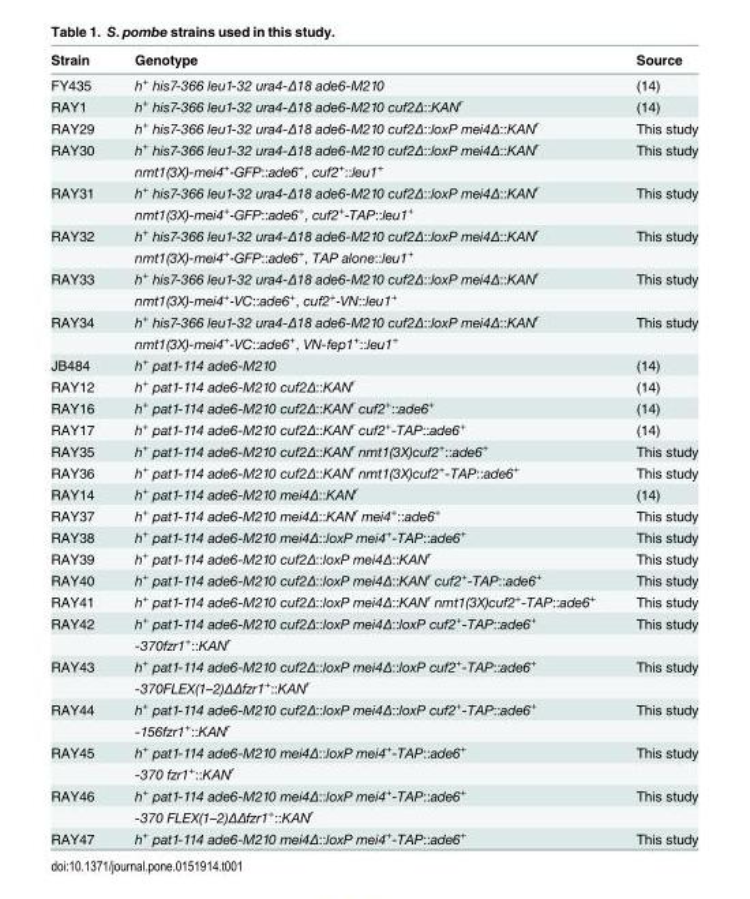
<table><thead><tr><td>Strain</td><td>Genotype</td><td>Source</td></tr></thead><tbody><tr><td>FY435</td><td>h<sup>+</sup> his7-366 leu1-32 ura4-Δ18 ade6-M210</td><td>(14)</td></tr><tr><td>RAY1</td><td>h<sup>+</sup> his7-366 leu1-32 ura4-Δ18 ade6-M210 cuf2Δ::KAN<sup>r</sup></td><td>(14)</td></tr><tr><td>RAY29</td><td>h<sup>+</sup> his7-366 leu1-32 ura4-Δ18 ade6-M210 cuf2Δ::loxP mei4Δ::KAN<sup>r</sup></td><td>This study</td></tr><tr><td rowspan="2">RAY30</td><td>h<sup>+</sup> his7-366 leu1-32 ura4-Δ18 ade6-M210 cuf2Δ::loxP mei4Δ::KAN<sup>r</sup></td><td>This study</td></tr><tr><td>nmt1(3X)-mei4<sup>+</sup>-GFP::ade6<sup>+</sup>, cuf2<sup>+</sup>::leu1<sup>+</sup></td><td></td></tr><tr><td rowspan="2">RAY31</td><td>h<sup>+</sup> his7-366 leu1-32 ura4-Δ18 ade6-M210 cuf2Δ::loxP mei4Δ::KAN<sup>r</sup></td><td>This study</td></tr><tr><td>nmt1(3X)-mei4<sup>+</sup>-GFP::ade6<sup>+</sup>, cuf2<sup>+</sup>-TAP::leu1<sup>+</sup></td><td></td></tr><tr><td rowspan="2">RAY32</td><td>h<sup>+</sup> his7-366 leu1-32 ura4-Δ18 ade6-M210 cuf2Δ::loxP mei4Δ::KAN<sup>r</sup></td><td>This study</td></tr><tr><td>nmt1(3X)-mei4<sup>+</sup>-GFP::ade6<sup>+</sup>, TAP alone::leu1<sup>+</sup></td><td></td></tr><tr><td rowspan="2">RAY33</td><td>h<sup>+</sup> his7-366 leu1-32 ura4-Δ18 ade6-M210 cuf2Δ::loxP mei4Δ::KAN<sup>r</sup></td><td>This study</td></tr><tr><td>nmt1(3X)-mei4<sup>+</sup>-VC::ade6<sup>+</sup>, cuf2<sup>+</sup>-VN::leu1<sup>+</sup></td><td></td></tr><tr><td rowspan="2">RAY34</td><td>h<sup>+</sup> his7-366 leu1-32 ura4-Δ18 ade6-M210 cuf2Δ::loxP mei4Δ::KAN<sup>r</sup></td><td>This study</td></tr><tr><td>nmt1(3X)-mei4<sup>+</sup>-VC::ade6<sup>+</sup>, VN-fep1<sup>+</sup>::leu1<sup>+</sup></td><td></td></tr><tr><td>JB484</td><td>h<sup>+</sup> pat1-114 ade6-M210</td><td>(14)</td></tr><tr><td>RAY12</td><td>h<sup>+</sup> pat1-114 ade6-M210 cuf2Δ::KAN<sup>r</sup></td><td>(14)</td></tr><tr><td>RAY16</td><td>h<sup>+</sup> pat1-114 ade6-M210 cuf2Δ::KAN<sup>r</sup> cuf2<sup>+</sup>::ade6<sup>+</sup></td><td>(14)</td></tr><tr><td>RAY17</td><td>h<sup>+</sup> pat1-114 ade6-M210 cuf2Δ::KAN<sup>r</sup> cuf2<sup>+</sup>-TAP::ade6<sup>+</sup></td><td>(14)</td></tr><tr><td>RAY35</td><td>h<sup>+</sup> pat1-114 ade6-M210 cuf2Δ::KAN<sup>r</sup> nmt1(3X)cuf2<sup>+</sup>::ade6<sup>+</sup></td><td>This study</td></tr><tr><td>RAY36</td><td>h<sup>+</sup> pat1-114 ade6-M210 cuf2Δ::KAN<sup>r</sup> nmt1(3X)cuf2<sup>+</sup>-TAP::ade6<sup>+</sup></td><td>This study</td></tr><tr><td>RAY14</td><td>h<sup>+</sup> pat1-114 ade6-M210 mei4Δ::KAN<sup>r</sup></td><td>(14)</td></tr><tr><td>RAY37</td><td>h<sup>+</sup> pat1-114 ade6-M210 mei4Δ::KAN<sup>r</sup> mei4<sup>+</sup>::ade6<sup>+</sup></td><td>This study</td></tr><tr><td>RAY38</td><td>h<sup>+</sup> pat1-114 ade6-M210 mei4Δ::loxP mei4<sup>+</sup>-TAP::ade6<sup>+</sup></td><td>This study</td></tr><tr><td>RAY39</td><td>h<sup>+</sup> pat1-114 ade6-M210 cuf2Δ::loxP mei4Δ::KAN<sup>r</sup></td><td>This study</td></tr><tr><td>RAY40</td><td>h<sup>+</sup> pat1-114 ade6-M210 cuf2Δ::loxP mei4Δ::KAN<sup>r</sup> cuf2<sup>+</sup>-TAP::ade6<sup>+</sup></td><td>This study</td></tr><tr><td>RAY41</td><td>h<sup>+</sup> pat1-114 ade6-M210 cuf2Δ::loxP mei4Δ::KAN<sup>r</sup> nmt1(3X)cuf2<sup>+</sup>-TAP::ade6<sup>+</sup></td><td>This study</td></tr><tr><td rowspan="2">RAY42</td><td>h<sup>+</sup> pat1-114 ade6-M210 cuf2Δ::loxP mei4Δ::loxP cuf2<sup>+</sup>-TAP::ade6<sup>+</sup></td><td>This study</td></tr><tr><td>-370fzr1<sup>+</sup>::KAN<sup>r</sup></td><td></td></tr><tr><td rowspan="2">RAY43</td><td>h<sup>+</sup> pat1-114 ade6-M210 cuf2Δ::loxP mei4Δ::loxP cuf2<sup>+</sup>-TAP::ade6<sup>+</sup></td><td>This study</td></tr><tr><td>-370FLEX(1–2)ΔΔfzr1<sup>+</sup>::KAN<sup>r</sup></td><td></td></tr><tr><td rowspan="2">RAY44</td><td>h<sup>+</sup> pat1-114 ade6-M210 cuf2Δ::loxP mei4Δ::loxP cuf2<sup>+</sup>-TAP::ade6<sup>+</sup></td><td>This study</td></tr><tr><td>-156fzr1<sup>+</sup>::KAN<sup>r</sup></td><td></td></tr><tr><td rowspan="2">RAY45</td><td>h<sup>+</sup> pat1-114 ade6-M210 mei4Δ::loxP mei4<sup>+</sup>-TAP::ade6<sup>+</sup></td><td>This study</td></tr><tr><td>-370 fzr1<sup>+</sup>::KAN<sup>r</sup></td><td></td></tr><tr><td rowspan="2">RAY46</td><td>h<sup>+</sup> pat1-114 ade6-M210 mei4Δ::loxP mei4<sup>+</sup>-TAP::ade6<sup>+</sup></td><td>This study</td></tr><tr><td>-370 FLEX(1–2)ΔΔfzr1<sup>+</sup>::KAN<sup>r</sup></td><td></td></tr><tr><td>RAY47</td><td>h<sup>+</sup> pat1-114 ade6-M210 mei4Δ::loxP mei4<sup>+</sup>-TAP::ade6<sup>+</sup></td><td>This study</td></tr></tbody></table>